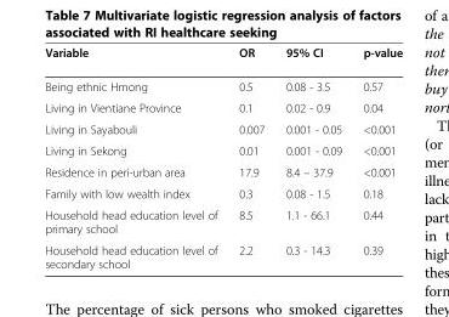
<table><thead><tr><td>Variable</td><td>OR</td><td>95% CI</td><td>p-value</td></tr></thead><tbody><tr><td>Being ethnic Hmong</td><td>0.5</td><td>0.08 - 3.5</td><td>0.57</td></tr><tr><td>Living in Vientiane Province</td><td>0.1</td><td>0.02 - 0.9</td><td>0.04</td></tr><tr><td>Living in Sayabouli</td><td>0.007</td><td>0.001 - 0.05</td><td>&lt;0.001</td></tr><tr><td>Living in Sekong</td><td>0.01</td><td>0.001 - 0.09</td><td>&lt;0.001</td></tr><tr><td>Residence in peri-urban area</td><td>17.9</td><td>8.4 – 37.9</td><td>&lt;0.001</td></tr><tr><td>Family with low wealth index</td><td>0.3</td><td>0.08 - 1.5</td><td>0.18</td></tr><tr><td>Household head education level of primary school</td><td>8.5</td><td>1.1 - 66.1</td><td>0.44</td></tr><tr><td>Household head education level of secondary school</td><td>2.2</td><td>0.3 - 14.3</td><td>0.39</td></tr></tbody></table>